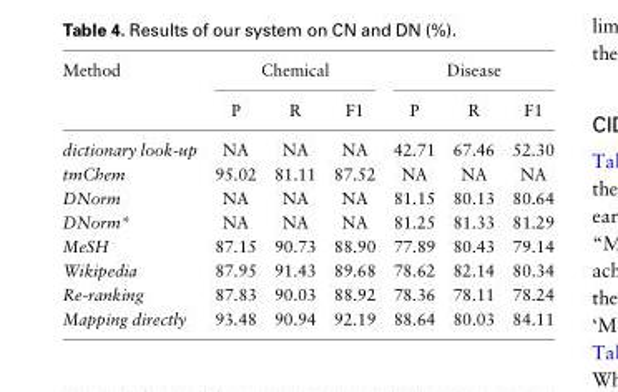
<table><thead><tr><td rowspan="2">Method</td><td colspan="3">Chemical</td><td colspan="3">Disease</td></tr><tr><td>P</td><td>R</td><td>F1</td><td>P</td><td>R</td><td>F1</td></tr></thead><tbody><tr><td>dictionary look-up</td><td>NA</td><td>NA</td><td>NA</td><td>42.71</td><td>67.46</td><td>52.30</td></tr><tr><td>tmChem</td><td>95.02</td><td>81.11</td><td>87.52</td><td>NA</td><td>NA</td><td>NA</td></tr><tr><td>DNorm</td><td>NA</td><td>NA</td><td>NA</td><td>81.15</td><td>80.13</td><td>80.64</td></tr><tr><td>DNorm*</td><td>NA</td><td>NA</td><td>NA</td><td>81.25</td><td>81.33</td><td>81.29</td></tr><tr><td>MeSH</td><td>87.15</td><td>90.73</td><td>88.90</td><td>77.89</td><td>80.43</td><td>79.14</td></tr><tr><td>Wikipedia</td><td>87.95</td><td>91.43</td><td>89.68</td><td>78.62</td><td>82.14</td><td>80.34</td></tr><tr><td>Re-ranking</td><td>87.83</td><td>90.03</td><td>88.92</td><td>78.36</td><td>78.11</td><td>78.24</td></tr><tr><td>Mapping directly</td><td>93.48</td><td>90.94</td><td>92.19</td><td>88.64</td><td>80.03</td><td>84.11</td></tr></tbody></table>